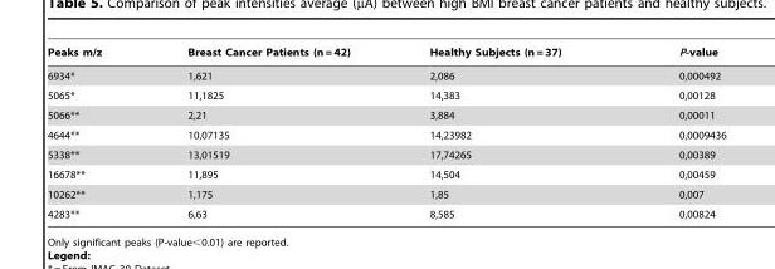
<table><thead><tr><td>Peaks m/z</td><td>Breast Cancer Patients (n = 42)</td><td>Healthy Subjects (n = 37)</td><td>P-value</td></tr></thead><tbody><tr><td>6934*</td><td>1,621</td><td>2,086</td><td>0,000492</td></tr><tr><td>5065*</td><td>11,1825</td><td>14,383</td><td>0,00128</td></tr><tr><td>5066**</td><td>2,21</td><td>3,884</td><td>0,00011</td></tr><tr><td>4644**</td><td>10,07135</td><td>14,23982</td><td>0,0009436</td></tr><tr><td>5338**</td><td>13,01519</td><td>17,74265</td><td>0,00389</td></tr><tr><td>16678**</td><td>11,895</td><td>14,504</td><td>0,00459</td></tr><tr><td>10262**</td><td>1,175</td><td>1,85</td><td>0,007</td></tr><tr><td>4283**</td><td>6,63</td><td>8,585</td><td>0,00824</td></tr></tbody></table>